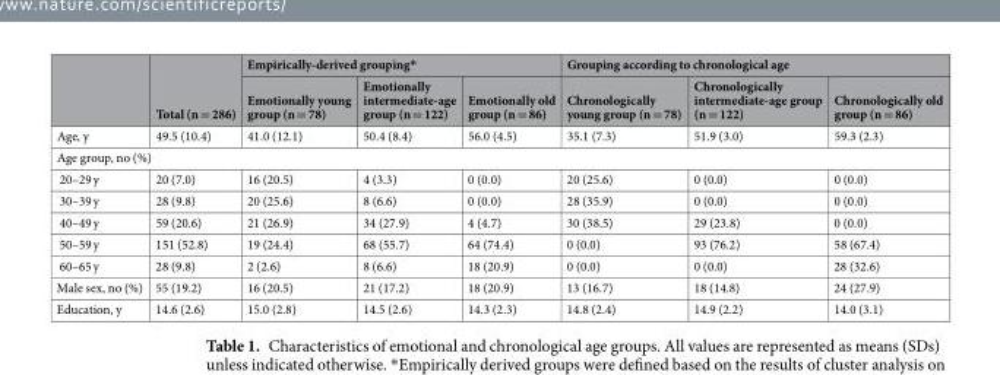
<table><thead><tr><td rowspan="2"></td><td rowspan="2">Total (n = 286)</td><td colspan="3">Empirically-derived grouping*</td><td colspan="3">Grouping according to chronological age</td></tr><tr><td>Emotionally young group (n = 78)</td><td>Emotionally intermediate-age group (n = 122)</td><td>Emotionally old group (n = 86)</td><td>Chronologically young group (n = 78)</td><td>Chronologically intermediate-age group (n = 122)</td><td>Chronologically old group (n = 86)</td></tr></thead><tbody><tr><td>Age, y</td><td>49.5 (10.4)</td><td>41.0 (12.1)</td><td>50.4 (8.4)</td><td>56.0 (4.5)</td><td>35.1 (7.3)</td><td>51.9 (3.0)</td><td>59.3 (2.3)</td></tr><tr><td colspan="8">Age group, no (%)</td></tr><tr><td>20–29 y</td><td>20 (7.0)</td><td>16 (20.5)</td><td>4 (3.3)</td><td>0 (0.0)</td><td>20 (25.6)</td><td>0 (0.0)</td><td>0 (0.0)</td></tr><tr><td>30–39 y</td><td>28 (9.8)</td><td>20 (25.6)</td><td>8 (6.6)</td><td>0 (0.0)</td><td>28 (35.9)</td><td>0 (0.0)</td><td>0 (0.0)</td></tr><tr><td>40–49 y</td><td>59 (20.6)</td><td>21 (26.9)</td><td>34 (27.9)</td><td>4 (4.7)</td><td>30 (38.5)</td><td>29 (23.8)</td><td>0 (0.0)</td></tr><tr><td>50–59 y</td><td>151 (52.8)</td><td>19 (24.4)</td><td>68 (55.7)</td><td>64 (74.4)</td><td>0 (0.0)</td><td>93 (76.2)</td><td>58 (67.4)</td></tr><tr><td>60–65 y</td><td>28 (9.8)</td><td>2 (2.6)</td><td>8 (6.6)</td><td>18 (20.9)</td><td>0 (0.0)</td><td>0 (0.0)</td><td>28 (32.6)</td></tr><tr><td>Male sex, no (%)</td><td>55 (19.2)</td><td>16 (20.5)</td><td>21 (17.2)</td><td>18 (20.9)</td><td>13 (16.7)</td><td>18 (14.8)</td><td>24 (27.9)</td></tr><tr><td>Education, y</td><td>14.6 (2.6)</td><td>15.0 (2.8)</td><td>14.5 (2.6)</td><td>14.3 (2.3)</td><td>14.8 (2.4)</td><td>14.9 (2.2)</td><td>14.0 (3.1)</td></tr></tbody></table>